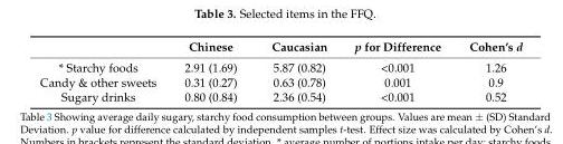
<table><thead><tr><td></td><td>Chinese</td><td>Caucasian</td><td>p for Difference</td><td>Cohen’s d</td></tr></thead><tbody><tr><td>* Starchy foods</td><td>2.91 (1.69)</td><td>5.87 (0.82)</td><td>&lt;0.001</td><td>1.26</td></tr><tr><td>Candy &amp; other sweets</td><td>0.31 (0.27)</td><td>0.63 (0.78)</td><td>0.001</td><td>0.9</td></tr><tr><td>Sugary drinks</td><td>0.80 (0.84)</td><td>2.36 (0.54)</td><td>&lt;0.001</td><td>0.52</td></tr></tbody></table>